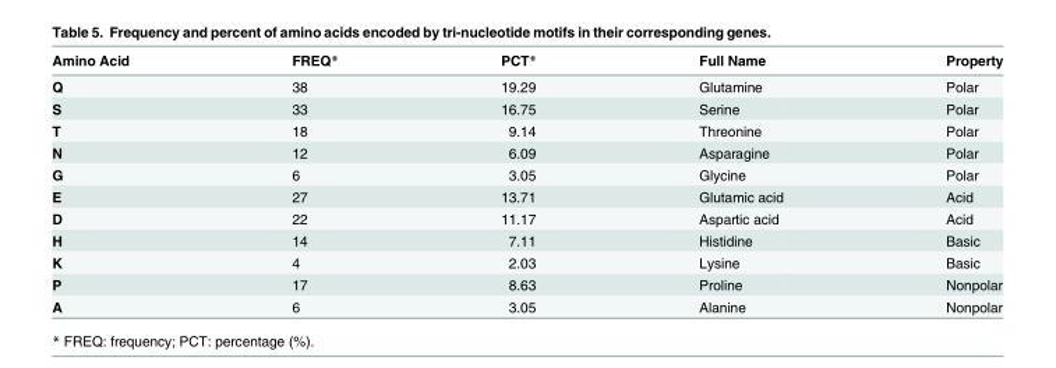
<table><thead><tr><td>Amino Acid</td><td>FREQ*</td><td>PCT*</td><td>Full Name</td><td>Property</td></tr></thead><tbody><tr><td>Q</td><td>38</td><td>19.29</td><td>Glutamine</td><td>Polar</td></tr><tr><td>S</td><td>33</td><td>16.75</td><td>Serine</td><td>Polar</td></tr><tr><td>T</td><td>18</td><td>9.14</td><td>Threonine</td><td>Polar</td></tr><tr><td>N</td><td>12</td><td>6.09</td><td>Asparagine</td><td>Polar</td></tr><tr><td>G</td><td>6</td><td>3.05</td><td>Glycine</td><td>Polar</td></tr><tr><td>E</td><td>27</td><td>13.71</td><td>Glutamic acid</td><td>Acid</td></tr><tr><td>D</td><td>22</td><td>11.17</td><td>Aspartic acid</td><td>Acid</td></tr><tr><td>H</td><td>14</td><td>7.11</td><td>Histidine</td><td>Basic</td></tr><tr><td>K</td><td>4</td><td>2.03</td><td>Lysine</td><td>Basic</td></tr><tr><td>P</td><td>17</td><td>8.63</td><td>Proline</td><td>Nonpolar</td></tr><tr><td>A</td><td>6</td><td>3.05</td><td>Alanine</td><td>Nonpolar</td></tr></tbody></table>